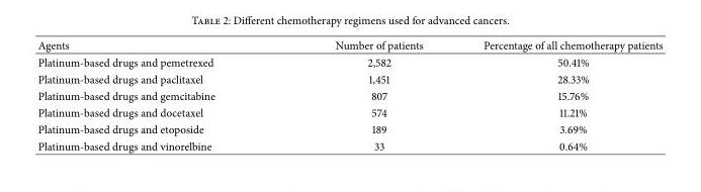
<table><thead><tr><td>Agents</td><td>Number of patients</td><td>Percentage of all chemotherapy patients</td></tr></thead><tbody><tr><td>Platinum-based drugs and pemetrexed</td><td>2,582</td><td>50.41%</td></tr><tr><td>Platinum-based drugs and paclitaxel</td><td>1,451</td><td>28.33%</td></tr><tr><td>Platinum-based drugs and gemcitabine</td><td>807</td><td>15.76%</td></tr><tr><td>Platinum-based drugs and docetaxel</td><td>574</td><td>11.21%</td></tr><tr><td>Platinum-based drugs and etoposide</td><td>189</td><td>3.69%</td></tr><tr><td>Platinum-based drugs and vinorelbine</td><td>33</td><td>0.64%</td></tr></tbody></table>